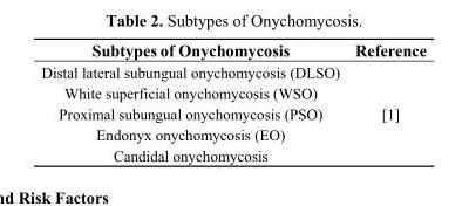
<table><thead><tr><td>Subtypes of Onychomycosis</td><td>Reference</td></tr></thead><tbody><tr><td>Distal lateral subungual onychomycosis (DLSO)</td><td rowspan="5">[1]</td></tr><tr><td>White superficial onychomycosis (WSO)</td></tr><tr><td>Proximal subungual onychomycosis (PSO)</td></tr><tr><td>Endonyx onychomycosis (EO)</td></tr><tr><td>Candidal onychomycosis</td></tr></tbody></table>